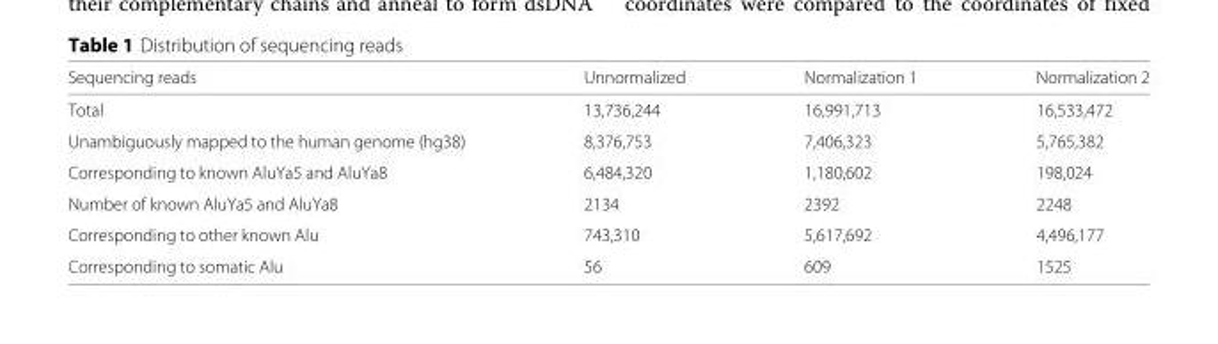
<table><thead><tr><td>Sequencing reads</td><td>Unnormalized</td><td>Normalization 1</td><td>Normalization 2</td></tr></thead><tbody><tr><td>Total</td><td>13,736,244</td><td>16,991,713</td><td>16,533,472</td></tr><tr><td>Unambiguously mapped to the human genome (hg38)</td><td>8,376,753</td><td>7,406,323</td><td>5,765,382</td></tr><tr><td>Corresponding to known AluYa5 and AluYa8</td><td>6,484,320</td><td>1,180,602</td><td>198,024</td></tr><tr><td>Number of known AluYa5 and AluYa8</td><td>2134</td><td>2392</td><td>2248</td></tr><tr><td>Corresponding to other known Alu</td><td>743,310</td><td>5,617,692</td><td>4,496,177</td></tr><tr><td>Corresponding to somatic Alu</td><td>56</td><td>609</td><td>1525</td></tr></tbody></table>